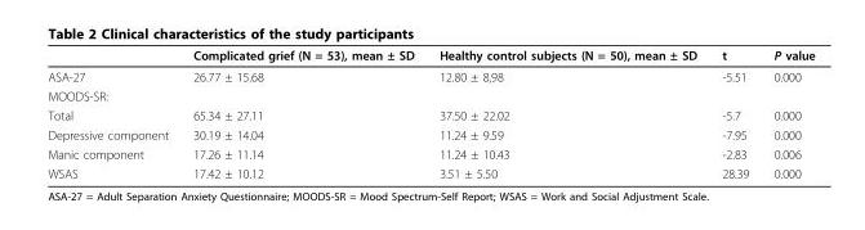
<table><thead><tr><td></td><td>Complicated grief (N = 53), mean ± SD</td><td>Healthy control subjects (N = 50), mean ± SD</td><td>t</td><td>P value</td></tr></thead><tbody><tr><td>ASA-27</td><td>26.77 ± 15.68</td><td>12.80 ± 8,98</td><td>-5.51</td><td>0.000</td></tr><tr><td colspan="5">MOODS-SR:</td></tr><tr><td>Total</td><td>65.34 ± 27.11</td><td>37.50 ± 22.02</td><td>-5.7</td><td>0.000</td></tr><tr><td>Depressive component</td><td>30.19 ± 14.04</td><td>11.24 ± 9.59</td><td>-7.95</td><td>0.000</td></tr><tr><td>Manic component</td><td>17.26 ± 11.14</td><td>11.24 ± 10.43</td><td>-2.83</td><td>0.006</td></tr><tr><td>WSAS</td><td>17.42 ± 10.12</td><td>3.51 ± 5.50</td><td>28.39</td><td>0.000</td></tr></tbody></table>